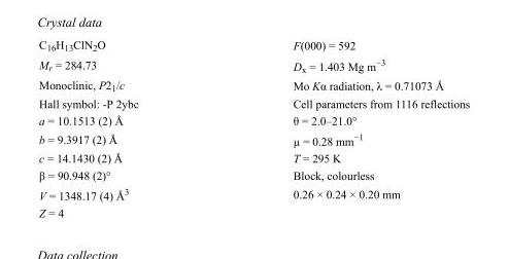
<table><tbody><tr><td>C<sub>16</sub>H<sub>13</sub>ClN<sub>2</sub>O</td><td>F(000) = 592</td></tr><tr><td>M<sub>r</sub> = 284.73</td><td>D<sub>x</sub> = 1.403 Mg m<sup>−3</sup></td></tr><tr><td>Monoclinic, P2<sub>1</sub>/c</td><td>Mo Kα radiation, λ = 0.71073 Å</td></tr><tr><td>Hall symbol: -P 2ybc</td><td>Cell parameters from 1116 reflections</td></tr><tr><td>a = 10.1513 (2) Å</td><td>θ = 2.0–21.0°</td></tr><tr><td>b = 9.3917 (2) Å</td><td>µ = 0.28 mm<sup>−1</sup></td></tr><tr><td>c = 14.1430 (2) Å</td><td>T = 295 K</td></tr><tr><td>β = 90.948 (2)°</td><td>Block, colourless</td></tr><tr><td>V = 1348.17 (4) Å<sup>3</sup></td><td>0.26 × 0.24 × 0.20 mm</td></tr><tr><td>Z = 4</td><td></td></tr></tbody></table>